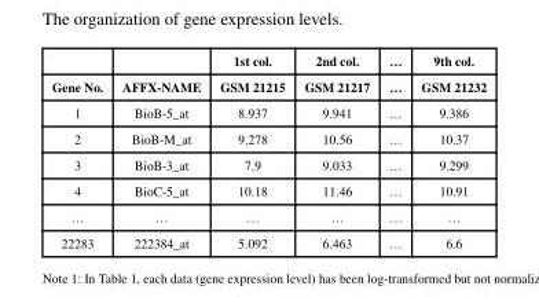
<table><thead><tr><td rowspan="2">Gene No.</td><td rowspan="2">AFFX-NAME</td><td rowspan="2">1st col. GSM 21215</td><td rowspan="2">2nd col. GSM 21217</td><td rowspan="2">… …</td><td rowspan="2">9th col. GSM 21232</td></tr><tr></tr></thead><tbody><tr><td>1</td><td>BioB-5_at</td><td>8.937</td><td>9.941</td><td>…</td><td>9.386</td></tr><tr><td>2</td><td>BioB-M_at</td><td>9.278</td><td>10.56</td><td>…</td><td>10.37</td></tr><tr><td>3</td><td>BioB-3_at</td><td>7.9</td><td>9.033</td><td>…</td><td>9.299</td></tr><tr><td>4</td><td>BioC-5_at</td><td>10.18</td><td>11.46</td><td>…</td><td>10.91</td></tr><tr><td>…</td><td>…</td><td>…</td><td>…</td><td>…</td><td>…</td></tr><tr><td>22283</td><td>222384_at</td><td>5.092</td><td>6.463</td><td>…</td><td>6.6</td></tr></tbody></table>